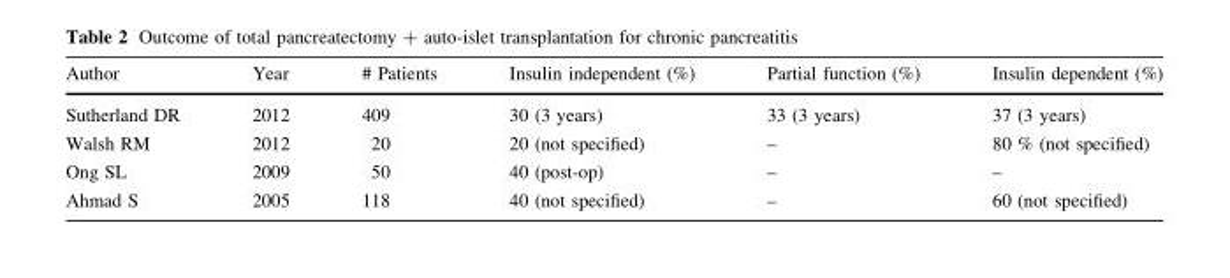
<table><thead><tr><td>Author</td><td>Year</td><td># Patients</td><td>Insulin independent (%)</td><td>Partial function (%)</td><td>Insulin dependent (%)</td></tr></thead><tbody><tr><td>Sutherland DR</td><td>2012</td><td>409</td><td>30 (3 years)</td><td>33 (3 years)</td><td>37 (3 years)</td></tr><tr><td>Walsh RM</td><td>2012</td><td>20</td><td>20 (not specified)</td><td>–</td><td>80 % (not specified)</td></tr><tr><td>Ong SL</td><td>2009</td><td>50</td><td>40 (post-op)</td><td>–</td><td>–</td></tr><tr><td>Ahmad S</td><td>2005</td><td>118</td><td>40 (not specified)</td><td>–</td><td>60 (not specified)</td></tr></tbody></table>